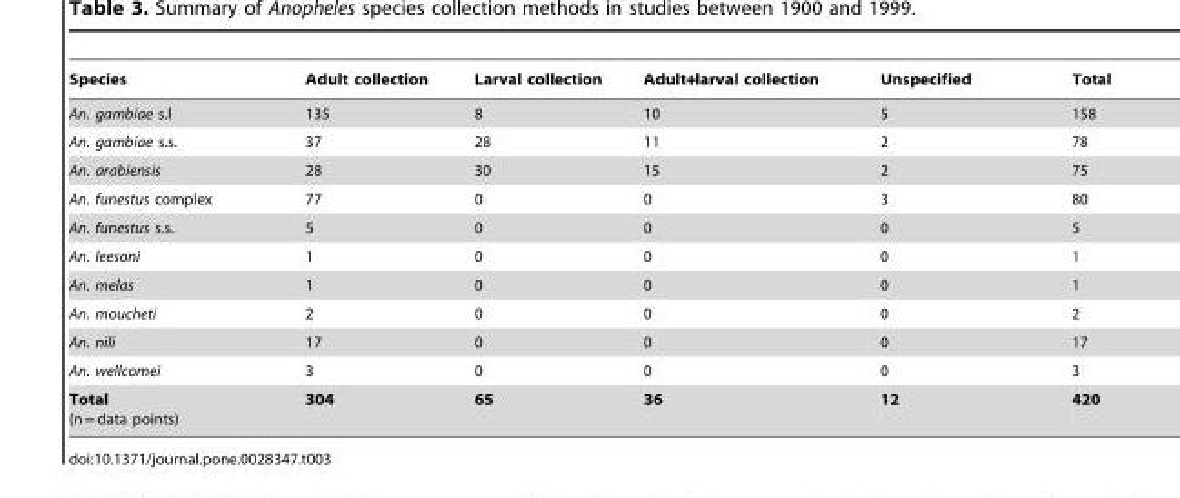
<table><thead><tr><td>Species</td><td>Adult collection</td><td>Larval collection</td><td>Adult+larval collection</td><td>Unspecified</td><td>Total</td></tr></thead><tbody><tr><td>An. gambiae s.l</td><td>135</td><td>8</td><td>10</td><td>5</td><td>158</td></tr><tr><td>An. gambiae s.s.</td><td>37</td><td>28</td><td>11</td><td>2</td><td>78</td></tr><tr><td>An. arabiensis</td><td>28</td><td>30</td><td>15</td><td>2</td><td>75</td></tr><tr><td>An. funestus complex</td><td>77</td><td>0</td><td>0</td><td>3</td><td>80</td></tr><tr><td>An. funestus s.s.</td><td>5</td><td>0</td><td>0</td><td>0</td><td>5</td></tr><tr><td>An. leesoni</td><td>1</td><td>0</td><td>0</td><td>0</td><td>1</td></tr><tr><td>An. melas</td><td>1</td><td>0</td><td>0</td><td>0</td><td>1</td></tr><tr><td>An. moucheti</td><td>2</td><td>0</td><td>0</td><td>0</td><td>2</td></tr><tr><td>An. nili</td><td>17</td><td>0</td><td>0</td><td>0</td><td>17</td></tr><tr><td>An. wellcomei</td><td>3</td><td>0</td><td>0</td><td>0</td><td>3</td></tr><tr><td>Total (n = data points)</td><td>304</td><td>65</td><td>36</td><td>12</td><td>420</td></tr></tbody></table>